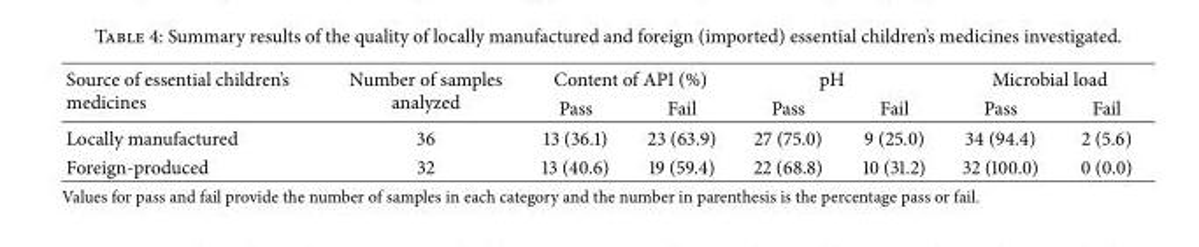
<table><thead><tr><td rowspan="2">Source of essential children’s medicines</td><td rowspan="2">Number of samples analyzed</td><td colspan="2">Content of API (%)</td><td colspan="2">pH</td><td colspan="2">Microbial load</td></tr><tr><td>Pass</td><td>Fail</td><td>Pass</td><td>Fail</td><td>Pass</td><td>Fail</td></tr></thead><tbody><tr><td>Locally manufactured</td><td>36</td><td>13 (36.1)</td><td>23 (63.9)</td><td>27 (75.0)</td><td>9 (25.0)</td><td>34 (94.4)</td><td>2 (5.6)</td></tr><tr><td>Foreign-produced</td><td>32</td><td>13 (40.6)</td><td>19 (59.4)</td><td>22 (68.8)</td><td>10 (31.2)</td><td>32 (100.0)</td><td>0 (0.0)</td></tr></tbody></table>